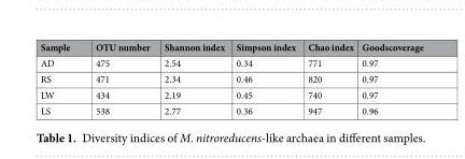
<table><thead><tr><td>Sample</td><td>OTU number</td><td>Shannon index</td><td>Simpson index</td><td>Chao index</td><td>Goodscoverage</td></tr></thead><tbody><tr><td>AD</td><td>475</td><td>2.54</td><td>0.34</td><td>771</td><td>0.97</td></tr><tr><td>RS</td><td>471</td><td>2.34</td><td>0.46</td><td>820</td><td>0.97</td></tr><tr><td>LW</td><td>434</td><td>2.19</td><td>0.45</td><td>740</td><td>0.97</td></tr><tr><td>LS</td><td>538</td><td>2.77</td><td>0.36</td><td>947</td><td>0.96</td></tr></tbody></table>